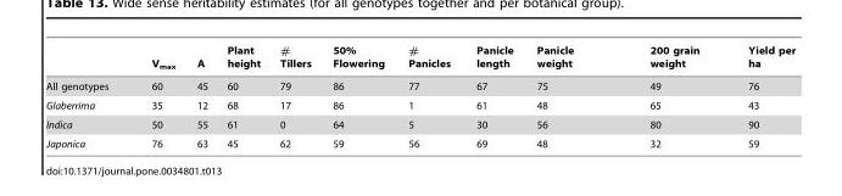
<table><thead><tr><td></td><td>V<sub>max</sub></td><td>A</td><td>Plant height</td><td># Tillers</td><td>50% Flowering</td><td># Panicles</td><td>Panicle length</td><td>Panicle weight</td><td>200 grain weight</td><td>Yield per ha</td></tr></thead><tbody><tr><td>All genotypes</td><td>60</td><td>45</td><td>60</td><td>79</td><td>86</td><td>77</td><td>67</td><td>75</td><td>49</td><td>76</td></tr><tr><td>Glaberrima</td><td>35</td><td>12</td><td>68</td><td>17</td><td>86</td><td>1</td><td>61</td><td>48</td><td>65</td><td>43</td></tr><tr><td>Indica</td><td>50</td><td>55</td><td>61</td><td>0</td><td>64</td><td>5</td><td>30</td><td>56</td><td>80</td><td>90</td></tr><tr><td>Japonica</td><td>76</td><td>63</td><td>45</td><td>62</td><td>59</td><td>56</td><td>69</td><td>48</td><td>32</td><td>59</td></tr></tbody></table>